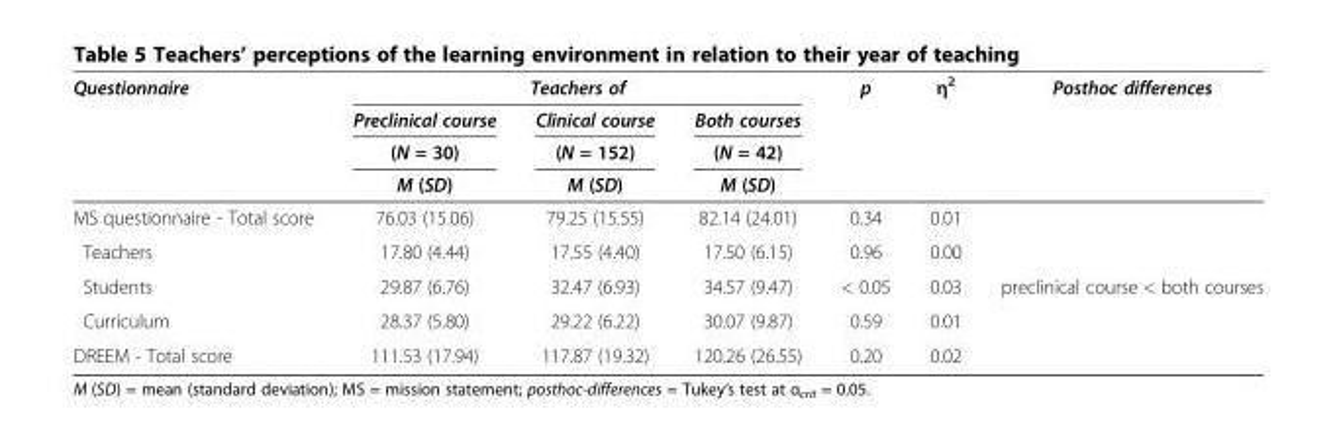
<table><thead><tr><td rowspan="4">Questionnaire</td><td colspan="3">Teachers of</td><td rowspan="4">p</td><td rowspan="4">η<sup>2</sup></td><td rowspan="4">Posthoc differences</td></tr><tr><td rowspan="3">Preclinical course (N = 30) M (SD)</td><td rowspan="3">Clinical course (N = 152) M (SD)</td><td rowspan="3">Both courses (N = 42) M (SD)</td></tr><tr></tr><tr></tr></thead><tbody><tr><td>MS questionnaire - Total score</td><td>76.03 (15.06)</td><td>79.25 (15.55)</td><td>82.14 (24.01)</td><td>0.34</td><td>0.01</td><td></td></tr><tr><td>Teachers</td><td>17.80 (4.44)</td><td>17.55 (4.40)</td><td>17.50 (6.15)</td><td>0.96</td><td>0.00</td><td></td></tr><tr><td>Students</td><td>29.87 (6.76)</td><td>32.47 (6.93)</td><td>34.57 (9.47)</td><td>&lt; 0.05</td><td>0.03</td><td>preclinical course &lt; both courses</td></tr><tr><td>Curriculum</td><td>28.37 (5.80)</td><td>29.22 (6.22)</td><td>30.07 (9.87)</td><td>0.59</td><td>0.01</td><td></td></tr><tr><td>DREEM - Total score</td><td>111.53 (17.94)</td><td>117.87 (19.32)</td><td>120.26 (26.55)</td><td>0.20</td><td>0.02</td><td></td></tr></tbody></table>